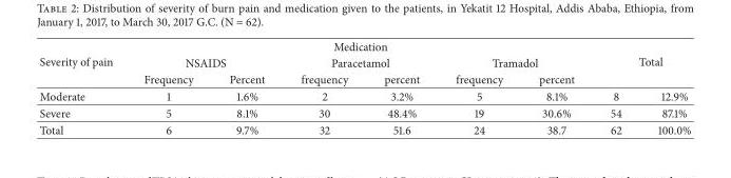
<table><thead><tr><td rowspan="4">Severity of pain Moderate</td><td colspan="6">Medication</td><td rowspan="3" colspan="2">Total</td></tr><tr><td colspan="2">NSAIDS</td><td colspan="2">Paracetamol</td><td colspan="2">Tramadol</td></tr><tr><td rowspan="2">Frequency 1</td><td rowspan="2">Percent 1.6%</td><td rowspan="2">frequency 2</td><td rowspan="2">percent 3.2%</td><td rowspan="2">frequency 5</td><td rowspan="2">percent 8.1%</td></tr><tr><td>8</td><td>12.9%</td></tr></thead><tbody><tr><td>Severe</td><td>5</td><td>8.1%</td><td>30</td><td>48.4%</td><td>19</td><td>30.6%</td><td>54</td><td>87.1%</td></tr><tr><td>Total</td><td>6</td><td>9.7%</td><td>32</td><td>51.6</td><td>24</td><td>38.7</td><td>62</td><td>100.0%</td></tr></tbody></table>